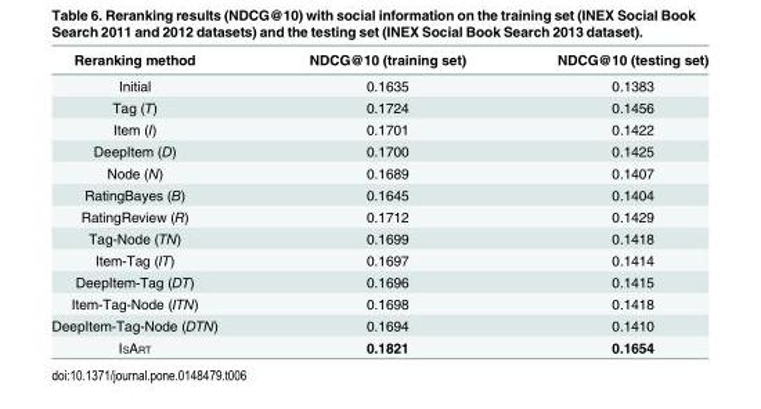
<table><thead><tr><td>Reranking method</td><td>NDCG@10 (training set)</td><td>NDCG@10 (testing set)</td></tr></thead><tbody><tr><td>Initial</td><td>0.1635</td><td>0.1383</td></tr><tr><td>Tag (T)</td><td>0.1724</td><td>0.1456</td></tr><tr><td>Item (I)</td><td>0.1701</td><td>0.1422</td></tr><tr><td>DeepItem (D)</td><td>0.1700</td><td>0.1425</td></tr><tr><td>Node (N)</td><td>0.1689</td><td>0.1407</td></tr><tr><td>RatingBayes (B)</td><td>0.1645</td><td>0.1404</td></tr><tr><td>RatingReview (R)</td><td>0.1712</td><td>0.1429</td></tr><tr><td>Tag-Node (TN)</td><td>0.1699</td><td>0.1418</td></tr><tr><td>Item-Tag (IT)</td><td>0.1697</td><td>0.1414</td></tr><tr><td>DeepItem-Tag (DT)</td><td>0.1696</td><td>0.1415</td></tr><tr><td>Item-Tag-Node (ITN)</td><td>0.1698</td><td>0.1418</td></tr><tr><td>DeepItem-Tag-Node (DTN)</td><td>0.1694</td><td>0.1410</td></tr><tr><td>ISART</td><td>0.1821</td><td>0.1654</td></tr></tbody></table>